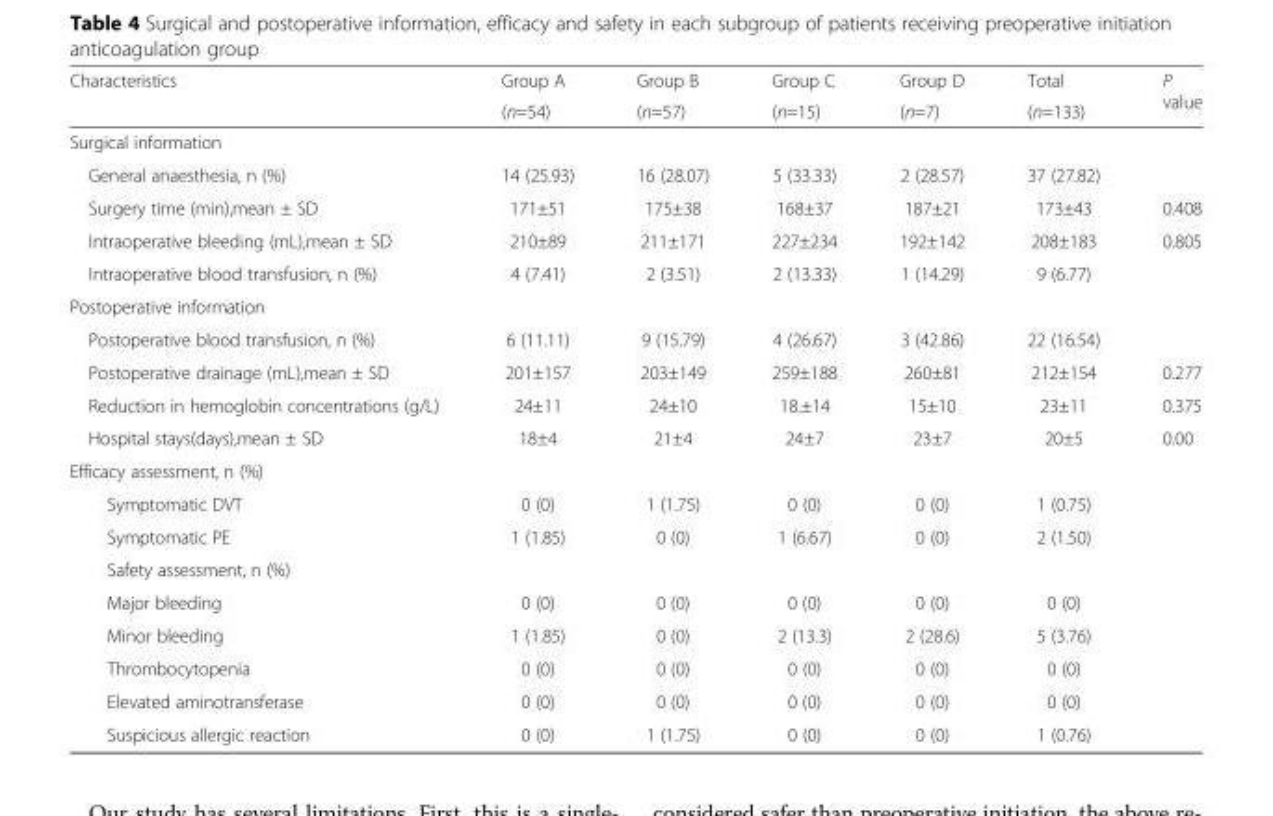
<table><thead><tr><td rowspan="2">Characteristics</td><td rowspan="2">Group A (n=54)</td><td rowspan="2">Group B (n=57)</td><td rowspan="2">Group C (n=15)</td><td rowspan="2">Group D (n=7)</td><td rowspan="2">Total (n=133)</td><td rowspan="2">P value</td></tr><tr></tr></thead><tbody><tr><td colspan="7">Surgical information</td></tr><tr><td>General anaesthesia, n (%)</td><td>14 (25.93)</td><td>16 (28.07)</td><td>5 (33.33)</td><td>2 (28.57)</td><td>37 (27.82)</td><td></td></tr><tr><td>Surgery time (min),mean ± SD</td><td>171±51</td><td>175±38</td><td>168±37</td><td>187±21</td><td>173±43</td><td>0.408</td></tr><tr><td>Intraoperative bleeding (mL),mean ± SD</td><td>210±89</td><td>211±171</td><td>227±234</td><td>192±142</td><td>208±183</td><td>0.805</td></tr><tr><td>Intraoperative blood transfusion, n (%)</td><td>4 (7.41)</td><td>2 (3.51)</td><td>2 (13.33)</td><td>1 (14.29)</td><td>9 (6.77)</td><td></td></tr><tr><td colspan="7">Postoperative information</td></tr><tr><td>Postoperative blood transfusion, n (%)</td><td>6 (11.11)</td><td>9 (15.79)</td><td>4 (26.67)</td><td>3 (42.86)</td><td>22 (16.54)</td><td></td></tr><tr><td>Postoperative drainage (mL),mean ± SD</td><td>201±157</td><td>203±149</td><td>259±188</td><td>260±81</td><td>212±154</td><td>0.277</td></tr><tr><td>Reduction in hemoglobin concentrations (g/L)</td><td>24±11</td><td>24±10</td><td>18.±14</td><td>15±10</td><td>23±11</td><td>0.375</td></tr><tr><td>Hospital stays(days),mean ± SD</td><td>18±4</td><td>21±4</td><td>24±7</td><td>23±7</td><td>20±5</td><td>0.00</td></tr><tr><td colspan="7">Efficacy assessment, n (%)</td></tr><tr><td>Symptomatic DVT</td><td>0 (0)</td><td>1 (1.75)</td><td>0 (0)</td><td>0 (0)</td><td>1 (0.75)</td><td></td></tr><tr><td>Symptomatic PE</td><td>1 (1.85)</td><td>0 (0)</td><td>1 (6.67)</td><td>0 (0)</td><td>2 (1.50)</td><td></td></tr><tr><td colspan="7">Safety assessment, n (%)</td></tr><tr><td>Major bleeding</td><td>0 (0)</td><td>0 (0)</td><td>0 (0)</td><td>0 (0)</td><td>0 (0)</td><td></td></tr><tr><td>Minor bleeding</td><td>1 (1.85)</td><td>0 (0)</td><td>2 (13.3)</td><td>2 (28.6)</td><td>5 (3.76)</td><td></td></tr><tr><td>Thrombocytopenia</td><td>0 (0)</td><td>0 (0)</td><td>0 (0)</td><td>0 (0)</td><td>0 (0)</td><td></td></tr><tr><td>Elevated aminotransferase</td><td>0 (0)</td><td>0 (0)</td><td>0 (0)</td><td>0 (0)</td><td>0 (0)</td><td></td></tr><tr><td>Suspicious allergic reaction</td><td>0 (0)</td><td>1 (1.75)</td><td>0 (0)</td><td>0 (0)</td><td>1 (0.76)</td><td></td></tr></tbody></table>